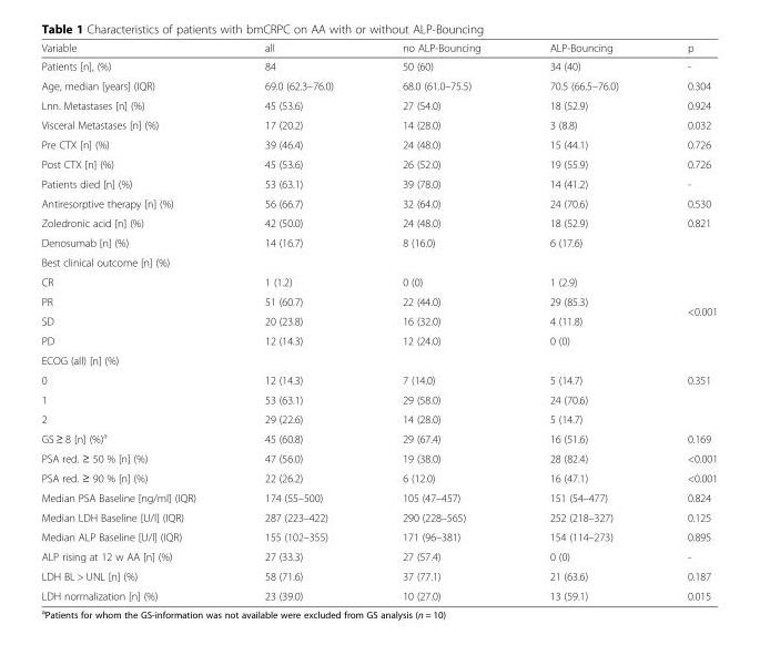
<table><thead><tr><td>Variable</td><td>all</td><td>no ALP-Bouncing</td><td>ALP-Bouncing</td><td>p</td></tr></thead><tbody><tr><td>Patients [n], (%)</td><td>84</td><td>50 (60)</td><td>34 (40)</td><td>-</td></tr><tr><td>Age, median [years] (IQR)</td><td>69.0 (62.3–76.0)</td><td>68.0 (61.0–75.5)</td><td>70.5 (66.5–76.0)</td><td>0.304</td></tr><tr><td>Lnn. Metastases [n] (%)</td><td>45 (53.6)</td><td>27 (54.0)</td><td>18 (52.9)</td><td>0.924</td></tr><tr><td>Visceral Metastases [n] (%)</td><td>17 (20.2)</td><td>14 (28.0)</td><td>3 (8.8)</td><td>0.032</td></tr><tr><td>Pre CTX [n] (%)</td><td>39 (46.4)</td><td>24 (48.0)</td><td>15 (44.1)</td><td>0.726</td></tr><tr><td>Post CTX [n] (%)</td><td>45 (53.6)</td><td>26 (52.0)</td><td>19 (55.9)</td><td>0.726</td></tr><tr><td>Patients died [n] (%)</td><td>53 (63.1)</td><td>39 (78.0)</td><td>14 (41.2)</td><td>-</td></tr><tr><td>Antiresorptive therapy [n] (%)</td><td>56 (66.7)</td><td>32 (64.0)</td><td>24 (70.6)</td><td>0.530</td></tr><tr><td>Zoledronic acid [n] (%)</td><td>42 (50.0)</td><td>24 (48.0)</td><td>18 (52.9)</td><td rowspan="2">0.821</td></tr><tr><td>Denosumab [n] (%)</td><td>14 (16.7)</td><td>8 (16.0)</td><td>6 (17.6)</td></tr><tr><td colspan="5">Best clinical outcome [n] (%)</td></tr><tr><td>CR</td><td>1 (1.2)</td><td>0 (0)</td><td>1 (2.9)</td><td rowspan="4">&lt;0.001</td></tr><tr><td>PR</td><td>51 (60.7)</td><td>22 (44.0)</td><td>29 (85.3)</td></tr><tr><td>SD</td><td>20 (23.8)</td><td>16 (32.0)</td><td>4 (11.8)</td></tr><tr><td>PD</td><td>12 (14.3)</td><td>12 (24.0)</td><td>0 (0)</td></tr><tr><td colspan="5">ECOG (all) [n] (%)</td></tr><tr><td>0</td><td>12 (14.3)</td><td>7 (14.0)</td><td>5 (14.7)</td><td>0.351</td></tr><tr><td>1</td><td>53 (63.1)</td><td>29 (58.0)</td><td>24 (70.6)</td><td></td></tr><tr><td>2</td><td>29 (22.6)</td><td>14 (28.0)</td><td>5 (14.7)</td><td></td></tr><tr><td>GS ≥ 8 [n] (%)<sup>a</sup></td><td>45 (60.8)</td><td>29 (67.4)</td><td>16 (51.6)</td><td>0.169</td></tr><tr><td>PSA red. ≥ 50 % [n] (%)</td><td>47 (56.0)</td><td>19 (38.0)</td><td>28 (82.4)</td><td>&lt;0.001</td></tr><tr><td>PSA red. ≥ 90 % [n] (%)</td><td>22 (26.2)</td><td>6 (12.0)</td><td>16 (47.1)</td><td>&lt;0.001</td></tr><tr><td>Median PSA Baseline [ng/ml] (IQR)</td><td>174 (55–500)</td><td>105 (47–457)</td><td>151 (54–477)</td><td>0.824</td></tr><tr><td>Median LDH Baseline [U/l] (IQR)</td><td>287 (223–422)</td><td>290 (228–565)</td><td>252 (218–327)</td><td>0.125</td></tr><tr><td>Median ALP Baseline [U/l] (IQR)</td><td>155 (102–355)</td><td>171 (96–381)</td><td>154 (114–273)</td><td>0.895</td></tr><tr><td>ALP rising at 12 w AA [n] (%)</td><td>27 (33.3)</td><td>27 (57.4)</td><td>0 (0)</td><td>-</td></tr><tr><td>LDH BL &gt; UNL [n] (%)</td><td>58 (71.6)</td><td>37 (77.1)</td><td>21 (63.6)</td><td>0.187</td></tr><tr><td>LDH normalization [n] (%)</td><td>23 (39.0)</td><td>10 (27.0)</td><td>13 (59.1)</td><td>0.015</td></tr></tbody></table>